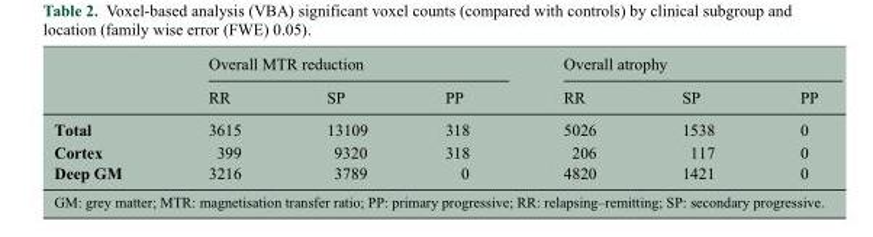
<table><thead><tr><td rowspan="2"></td><td colspan="3">Overall MTR reduction</td><td colspan="3">Overall atrophy</td></tr><tr><td>RR</td><td>SP</td><td>PP</td><td>RR</td><td>SP</td><td>PP</td></tr></thead><tbody><tr><td>Total</td><td>3615</td><td>13109</td><td>318</td><td>5026</td><td>1538</td><td>0</td></tr><tr><td>Cortex</td><td>399</td><td>9320</td><td>318</td><td>206</td><td>117</td><td>0</td></tr><tr><td>Deep GM</td><td>3216</td><td>3789</td><td>0</td><td>4820</td><td>1421</td><td>0</td></tr></tbody></table>